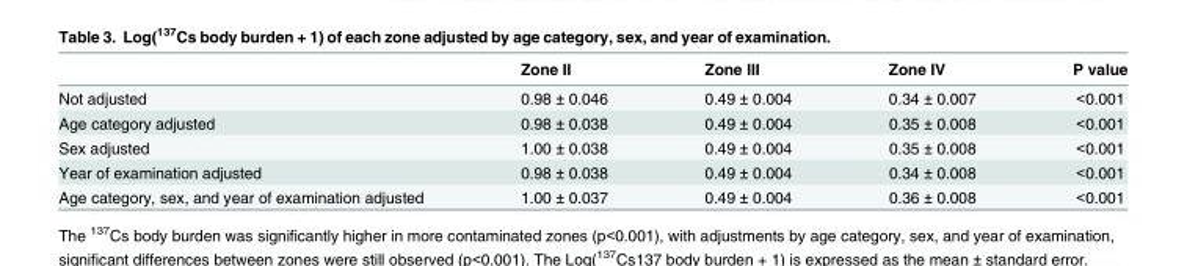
<table><thead><tr><td></td><td>Zone II</td><td>Zone III</td><td>Zone IV</td><td>P value</td></tr></thead><tbody><tr><td>Not adjusted</td><td>0.98 ± 0.046</td><td>0.49 ± 0.004</td><td>0.34 ± 0.007</td><td>&lt;0.001</td></tr><tr><td>Age category adjusted</td><td>0.98 ± 0.038</td><td>0.49 ± 0.004</td><td>0.35 ± 0.008</td><td>&lt;0.001</td></tr><tr><td>Sex adjusted</td><td>1.00 ± 0.038</td><td>0.49 ± 0.004</td><td>0.35 ± 0.008</td><td>&lt;0.001</td></tr><tr><td>Year of examination adjusted</td><td>0.98 ± 0.038</td><td>0.49 ± 0.004</td><td>0.34 ± 0.008</td><td>&lt;0.001</td></tr><tr><td>Age category, sex, and year of examination adjusted</td><td>1.00 ± 0.037</td><td>0.49 ± 0.004</td><td>0.36 ± 0.008</td><td>&lt;0.001</td></tr></tbody></table>